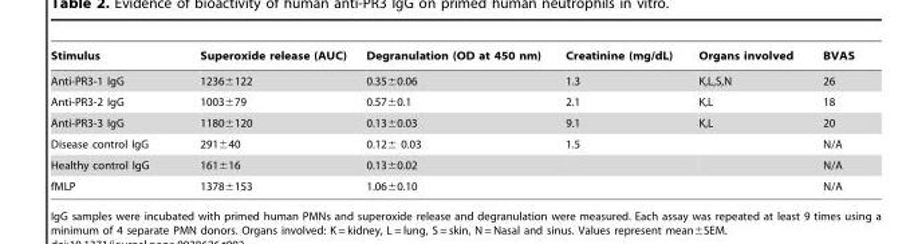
<table><thead><tr><td>Stimulus</td><td>Superoxide release (AUC)</td><td>Degranulation (OD at 450 nm)</td><td>Creatinine (mg/dL)</td><td>Organs involved</td><td>BVAS</td></tr></thead><tbody><tr><td>Anti-PR3-1 IgG</td><td>1236±122</td><td>0.35±0.06</td><td>1.3</td><td>K,L,S,N</td><td>26</td></tr><tr><td>Anti-PR3-2 IgG</td><td>1003±79</td><td>0.57±0.1</td><td>2.1</td><td>K,L</td><td>18</td></tr><tr><td>Anti-PR3-3 IgG</td><td>1180±120</td><td>0.13±0.03</td><td>9.1</td><td>K,L</td><td>20</td></tr><tr><td>Disease control IgG</td><td>291±40</td><td>0.12± 0.03</td><td>1.5</td><td></td><td>N/A</td></tr><tr><td>Healthy control IgG</td><td>161±16</td><td>0.13±0.02</td><td></td><td></td><td>N/A</td></tr><tr><td>fMLP</td><td>1378±153</td><td>1.06±0.10</td><td></td><td></td><td>N/A</td></tr></tbody></table>